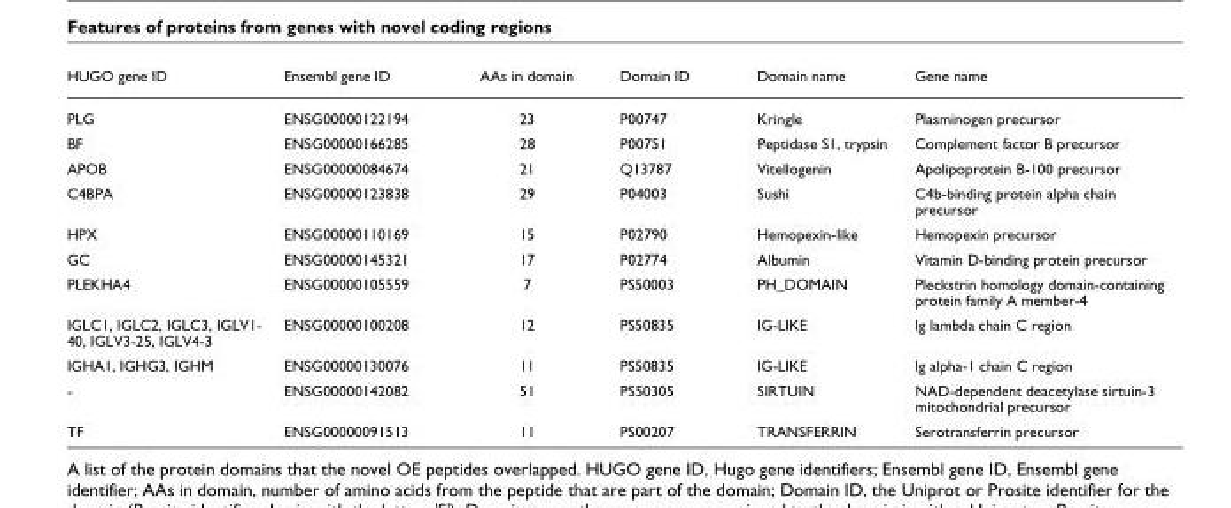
<table><thead><tr><td>HUGO gene ID</td><td>Ensembl gene ID</td><td>AAs in domain</td><td>Domain ID</td><td>Domain name</td><td>Gene name</td></tr></thead><tbody><tr><td>PLG</td><td>ENSG00000122194</td><td>23</td><td>P00747</td><td>Kringle</td><td>Plasminogen precursor</td></tr><tr><td>BF</td><td>ENSG00000166285</td><td>28</td><td>P00751</td><td>Peptidase S1, trypsin</td><td>Complement factor B precursor</td></tr><tr><td>APOB</td><td>ENSG00000084674</td><td>21</td><td>Q13787</td><td>Vitellogenin</td><td>Apolipoprotein B-100 precursor</td></tr><tr><td>C4BPA</td><td>ENSG00000123838</td><td>29</td><td>P04003</td><td>Sushi</td><td>C4b-binding protein alpha chain precursor</td></tr><tr><td>HPX</td><td>ENSG00000110169</td><td>15</td><td>P02790</td><td>Hemopexin-like</td><td>Hemopexin precursor</td></tr><tr><td>GC</td><td>ENSG00000145321</td><td>17</td><td>P02774</td><td>Albumin</td><td>Vitamin D-binding protein precursor</td></tr><tr><td>PLEKHA4</td><td>ENSG00000105559</td><td>7</td><td>PS50003</td><td>PH_DOMAIN</td><td>Pleckstrin homology domain-containing protein family A member-4</td></tr><tr><td>IGLC1, IGLC2, IGLC3, IGLV1- 40, IGLV3-25, IGLV4-3</td><td>ENSG00000100208</td><td>12</td><td>PS50835</td><td>IG-LIKE</td><td>Ig lambda chain C region</td></tr><tr><td>IGHA1, IGHG3, IGHM</td><td>ENSG00000130076</td><td>11</td><td>PS50835</td><td>IG-LIKE</td><td>Ig alpha-1 chain C region</td></tr><tr><td>-</td><td>ENSG00000142082</td><td>51</td><td>PS50305</td><td>SIRTUIN</td><td>NAD-dependent deacetylase sirtuin-3 mitochondrial precursor</td></tr><tr><td>TF</td><td>ENSG00000091513</td><td>11</td><td>PS00207</td><td>TRANSFERRIN</td><td>Serotransferrin precursor</td></tr></tbody></table>